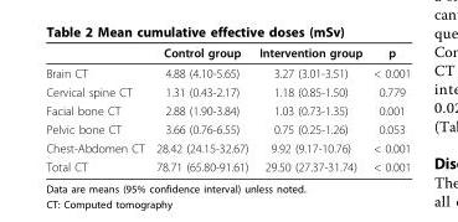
<table><thead><tr><td></td><td>Control group</td><td>Intervention group</td><td>p</td></tr></thead><tbody><tr><td>Brain CT</td><td>4.88 (4.10-5.65)</td><td>3.27 (3.01-3.51)</td><td>&lt; 0.001</td></tr><tr><td>Cervical spine CT</td><td>1.31 (0.43-2.17)</td><td>1.18 (0.85-1.50)</td><td>0.779</td></tr><tr><td>Facial bone CT</td><td>2.88 (1.90-3.84)</td><td>1.03 (0.73-1.35)</td><td>0.001</td></tr><tr><td>Pelvic bone CT</td><td>3.66 (0.76-6.55)</td><td>0.75 (0.25-1.26)</td><td>0.053</td></tr><tr><td>Chest-Abdomen CT</td><td>28.42 (24.15-32.67)</td><td>9.92 (9.17-10.76)</td><td>&lt; 0.001</td></tr><tr><td>Total CT</td><td>78.71 (65.80-91.61)</td><td>29.50 (27.37-31.74)</td><td>&lt; 0.001</td></tr></tbody></table>